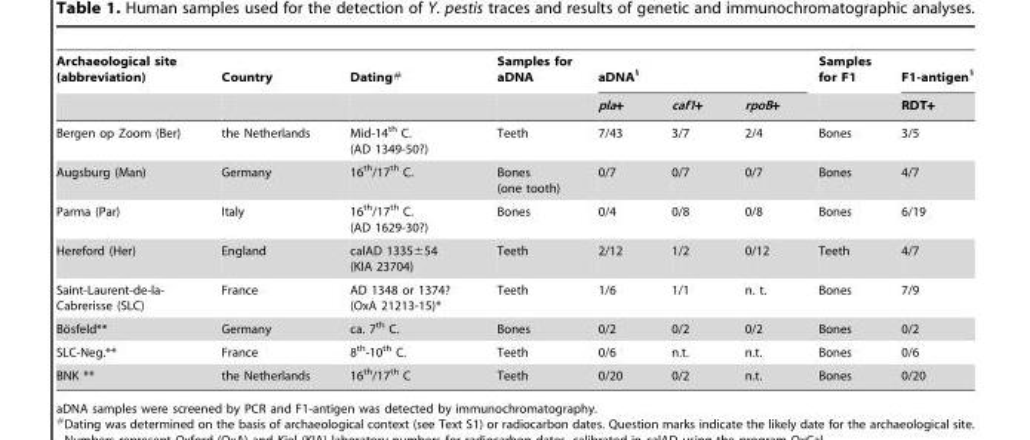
<table><thead><tr><td rowspan="2">Archaeological site (abbreviation)</td><td rowspan="2">Country</td><td rowspan="2">Dating#</td><td rowspan="2">Samples for aDNA</td><td colspan="3">aDNA§</td><td rowspan="2">Samples for F1</td><td rowspan="2">F1-antigen§ RDT+</td></tr><tr><td>pla+</td><td>caf1+</td><td>rpoB+</td></tr></thead><tbody><tr><td>Bergen op Zoom (Ber)</td><td>the Netherlands</td><td>Mid-14<sup>th</sup> C. (AD 1349-50?)</td><td>Teeth</td><td>7/43</td><td>3/7</td><td>2/4</td><td>Bones</td><td>3/5</td></tr><tr><td>Augsburg (Man)</td><td>Germany</td><td>16<sup>th</sup>/17<sup>th</sup> C.</td><td>Bones (one tooth)</td><td>0/7</td><td>0/7</td><td>0/7</td><td>Bones</td><td>4/7</td></tr><tr><td>Parma (Par)</td><td>Italy</td><td>16<sup>th</sup>/17<sup>th</sup> C. (AD 1629-30?)</td><td>Bones</td><td>0/4</td><td>0/8</td><td>0/8</td><td>Bones</td><td>6/19</td></tr><tr><td>Hereford (Her)</td><td>England</td><td>calAD 1335±54 (KIA 23704)</td><td>Teeth</td><td>2/12</td><td>1/2</td><td>0/12</td><td>Teeth</td><td>4/7</td></tr><tr><td>Saint-Laurent-de-la- Cabrerisse (SLC)</td><td>France</td><td>AD 1348 or 1374? (OxA 21213-15)*</td><td>Teeth</td><td>1/6</td><td>1/1</td><td>n. t.</td><td>Bones</td><td>7/9</td></tr><tr><td>Bo¨sfeld**</td><td>Germany</td><td>ca. 7<sup>th</sup> C.</td><td>Bones</td><td>0/2</td><td>0/2</td><td>0/2</td><td>Bones</td><td>0/2</td></tr><tr><td>SLC-Neg.**</td><td>France</td><td>8<sup>th</sup>-10<sup>th</sup> C.</td><td>Teeth</td><td>0/6</td><td>n.t.</td><td>n.t.</td><td>Bones</td><td>0/6</td></tr><tr><td>BNK **</td><td>the Netherlands</td><td>16<sup>th</sup>/17<sup>th</sup> C</td><td>Teeth</td><td>0/20</td><td>0/2</td><td>n.t.</td><td>Bones</td><td>0/20</td></tr></tbody></table>